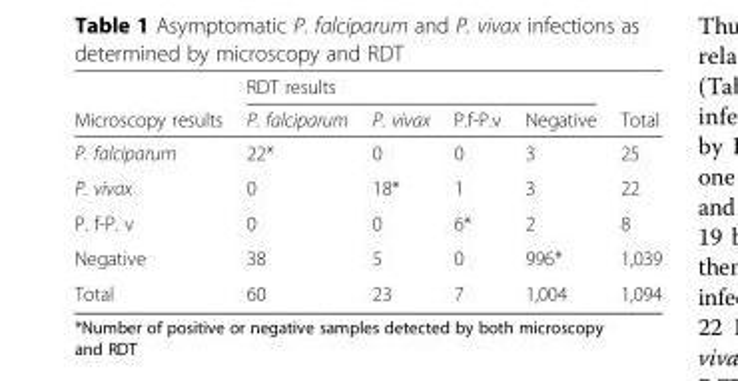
<table><thead><tr><td rowspan="2">Microscopy results</td><td colspan="4">RDT results</td><td rowspan="2">Total</td></tr><tr><td>P. falciparum</td><td>P. vivax</td><td>P.f-P.v</td><td>Negative</td></tr></thead><tbody><tr><td>P. falciparum</td><td>22*</td><td>0</td><td>0</td><td>3</td><td>25</td></tr><tr><td>P. vivax</td><td>0</td><td>18*</td><td>1</td><td>3</td><td>22</td></tr><tr><td>P. f-P. v</td><td>0</td><td>0</td><td>6*</td><td>2</td><td>8</td></tr><tr><td>Negative</td><td>38</td><td>5</td><td>0</td><td>996*</td><td>1,039</td></tr><tr><td>Total</td><td>60</td><td>23</td><td>7</td><td>1,004</td><td>1,094</td></tr></tbody></table>